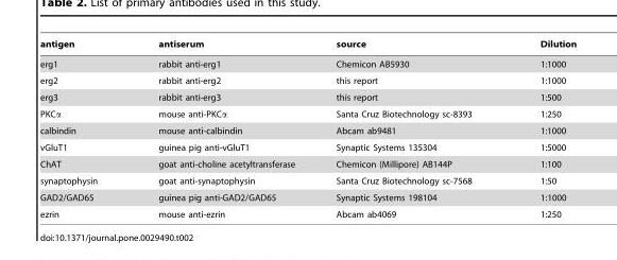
<table><thead><tr><td>antigen</td><td>antiserum</td><td>source</td><td>Dilution</td></tr></thead><tbody><tr><td>erg1</td><td>rabbit anti-erg1</td><td>Chemicon AB5930</td><td>1:1000</td></tr><tr><td>erg2</td><td>rabbit anti-erg2</td><td>this report</td><td>1:1000</td></tr><tr><td>erg3</td><td>rabbit anti-erg3</td><td>this report</td><td>1:500</td></tr><tr><td>PKCα</td><td>mouse anti-PKCα</td><td>Santa Cruz Biotechnology sc-8393</td><td>1:250</td></tr><tr><td>calbindin</td><td>mouse anti-calbindin</td><td>Abcam ab9481</td><td>1:1000</td></tr><tr><td>vGluT1</td><td>guinea pig anti-vGluT1</td><td>Synaptic Systems 135304</td><td>1:5000</td></tr><tr><td>ChAT</td><td>goat anti-choline acetyltransferase</td><td>Chemicon (Millipore) AB144P</td><td>1:100</td></tr><tr><td>synaptophysin</td><td>goat anti-synaptophysin</td><td>Santa Cruz Biotechnology sc-7568</td><td>1:50</td></tr><tr><td>GAD2/GAD65</td><td>guinea pig anti-GAD2/GAD65</td><td>Synaptic Systems 198104</td><td>1:1000</td></tr><tr><td>ezrin</td><td>mouse anti-ezrin</td><td>Abcam ab4069</td><td>1:250</td></tr></tbody></table>